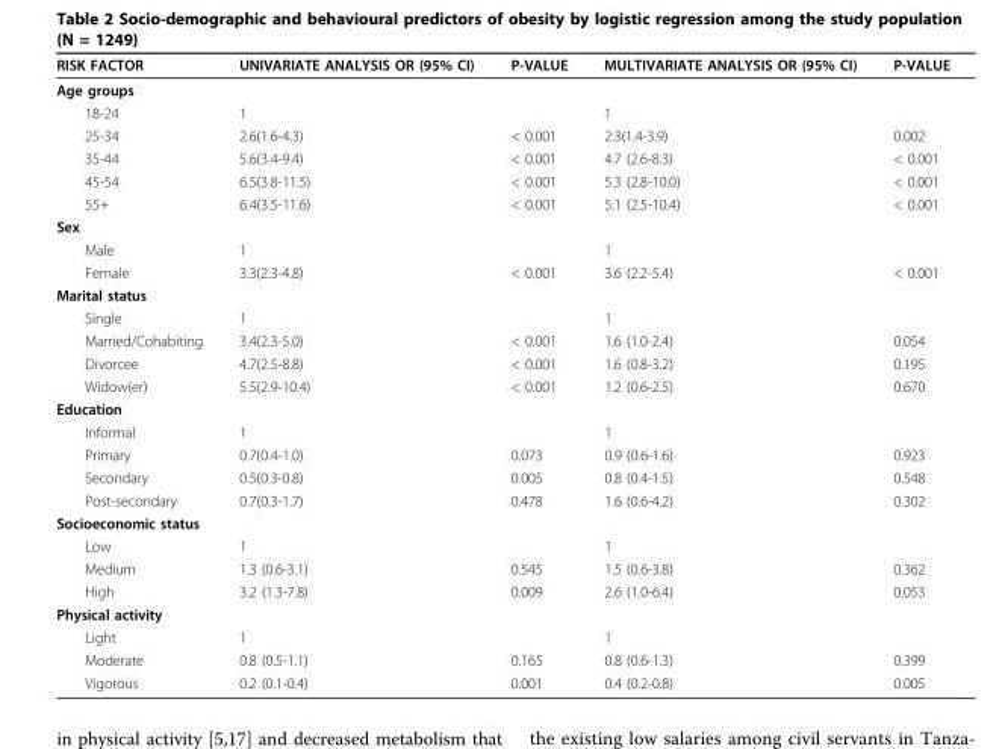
<table><thead><tr><td>RISK FACTOR</td><td>UNIVARIATE ANALYSIS OR (95% CI)</td><td>P-VALUE</td><td>MULTIVARIATE ANALYSIS OR (95% CI)</td><td>P-VALUE</td></tr></thead><tbody><tr><td colspan="5">Age groups</td></tr><tr><td>18-24</td><td>1</td><td></td><td>1</td><td></td></tr><tr><td>25-34</td><td>2.6(1.6-4.3)</td><td>&lt; 0.001</td><td>2.3(1.4-3.9)</td><td>0.002</td></tr><tr><td>35-44</td><td>5.6(3.4-9.4)</td><td>&lt; 0.001</td><td>4.7 (2.6-8.3)</td><td>&lt; 0.001</td></tr><tr><td>45-54</td><td>6.5(3.8-11.5)</td><td>&lt; 0.001</td><td>5.3 (2.8-10.0)</td><td>&lt; 0.001</td></tr><tr><td>55+</td><td>6.4(3.5-11.6)</td><td>&lt; 0.001</td><td>5.1 (2.5-10.4)</td><td>&lt; 0.001</td></tr><tr><td colspan="5">Sex</td></tr><tr><td>Male</td><td>1</td><td></td><td>1</td><td></td></tr><tr><td>Female</td><td>3.3(2.3-4.8)</td><td>&lt; 0.001</td><td>3.6 (2.2-5.4)</td><td>&lt; 0.001</td></tr><tr><td colspan="5">Marital status</td></tr><tr><td>Single</td><td>1</td><td></td><td>1</td><td></td></tr><tr><td>Married/Cohabiting</td><td>3.4(2.3-5.0)</td><td>&lt; 0.001</td><td>1.6 (1.0-2.4)</td><td>0.054</td></tr><tr><td>Divorcee</td><td>4.7(2.5-8.8)</td><td>&lt; 0.001</td><td>1.6 (0.8-3.2)</td><td>0.195</td></tr><tr><td>Widow(er)</td><td>5.5(2.9-10.4)</td><td>&lt; 0.001</td><td>1.2 (0.6-2.5)</td><td>0.670</td></tr><tr><td colspan="5">Education</td></tr><tr><td>Informal</td><td>1</td><td></td><td>1</td><td></td></tr><tr><td>Primary</td><td>0.7(0.4-1.0)</td><td>0.073</td><td>0.9 (0.6-1.6)</td><td>0.923</td></tr><tr><td>Secondary</td><td>0.5(0.3-0.8)</td><td>0.005</td><td>0.8 (0.4-1.5)</td><td>0.548</td></tr><tr><td>Post-secondary</td><td>0.7(0.3-1.7)</td><td>0.478</td><td>1.6 (0.6-4.2)</td><td>0.302</td></tr><tr><td colspan="5">Socioeconomic status</td></tr><tr><td>Low</td><td>1</td><td></td><td>1</td><td></td></tr><tr><td>Medium</td><td>1.3 (0.6-3.1)</td><td>0.545</td><td>1.5 (0.6-3.8)</td><td>0.362</td></tr><tr><td>High</td><td>3.2 (1.3-7.8)</td><td>0.009</td><td>2.6 (1.0-6.4)</td><td>0.053</td></tr><tr><td colspan="5">Physical activity</td></tr><tr><td>Light</td><td>1</td><td></td><td>1</td><td></td></tr><tr><td>Moderate</td><td>0.8 (0.5-1.1)</td><td>0.165</td><td>0.8 (0.6-1.3)</td><td>0.399</td></tr><tr><td>Vigorous</td><td>0.2 (0.1-0.4)</td><td>0.001</td><td>0.4 (0.2-0.8)</td><td>0.005</td></tr></tbody></table>